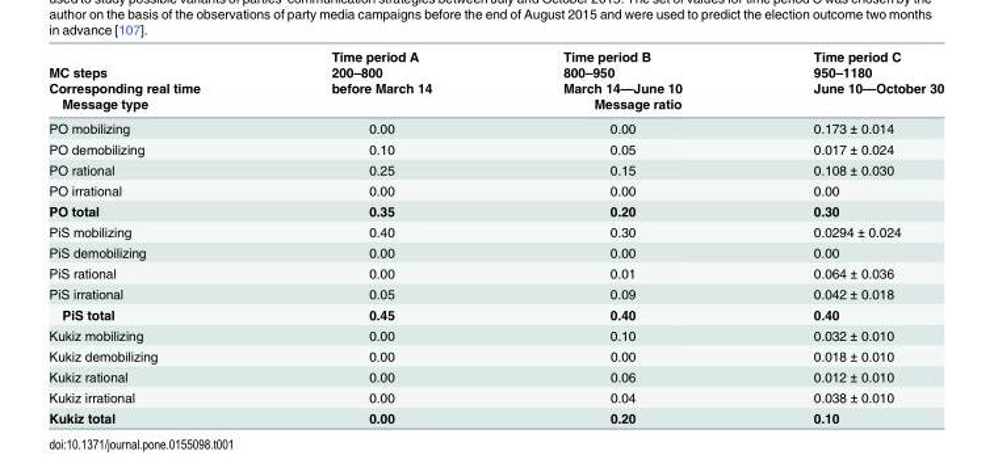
<table><thead><tr><td rowspan="4">MC steps Corresponding real time Message type</td><td rowspan="3">Time period A 200–800 before March 14</td><td rowspan="3">Time period B 800–950 March 14—June 10</td><td rowspan="3">Time period C 950–1180 June 10—October 30</td></tr><tr></tr><tr></tr><tr><td colspan="3">Message ratio</td></tr></thead><tbody><tr><td>PO mobilizing</td><td>0.00</td><td>0.00</td><td>0.173 ± 0.014</td></tr><tr><td>PO demobilizing</td><td>0.10</td><td>0.05</td><td>0.017 ± 0.024</td></tr><tr><td>PO rational</td><td>0.25</td><td>0.15</td><td>0.108 ± 0.030</td></tr><tr><td>PO irrational</td><td>0.00</td><td>0.00</td><td>0.00</td></tr><tr><td>PO total</td><td>0.35</td><td>0.20</td><td>0.30</td></tr><tr><td>PiS mobilizing</td><td>0.40</td><td>0.30</td><td>0.0294 ± 0.024</td></tr><tr><td>PiS demobilizing</td><td>0.00</td><td>0.00</td><td>0.00</td></tr><tr><td>PiS rational</td><td>0.00</td><td>0.01</td><td>0.064 ± 0.036</td></tr><tr><td>PiS irrational</td><td>0.05</td><td>0.09</td><td>0.042 ± 0.018</td></tr><tr><td>PiS total</td><td>0.45</td><td>0.40</td><td>0.40</td></tr><tr><td>Kukiz mobilizing</td><td>0.00</td><td>0.10</td><td>0.032 ± 0.010</td></tr><tr><td>Kukiz demobilizing</td><td>0.00</td><td>0.00</td><td>0.018 ± 0.010</td></tr><tr><td>Kukiz rational</td><td>0.00</td><td>0.06</td><td>0.012 ± 0.010</td></tr><tr><td>Kukiz irrational</td><td>0.00</td><td>0.04</td><td>0.038 ± 0.010</td></tr><tr><td>Kukiz total</td><td>0.00</td><td>0.20</td><td>0.10</td></tr></tbody></table>